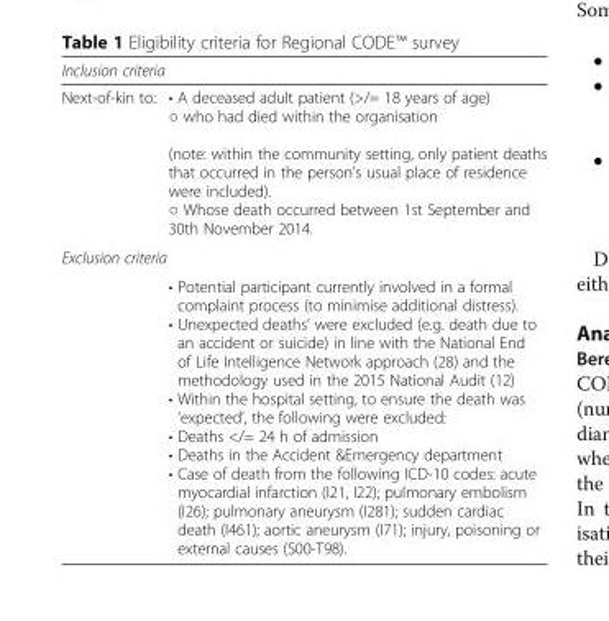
<table><thead><tr><td colspan="2">Inclusion criteria</td></tr><tr><td>Next-of-kin to:</td><td>• A deceased adult patient (&gt;/= 18 years of age) ○ who had died within the organisation (note: within the community setting, only patient deaths that occurred in the person’s usual place of residence were included). ○ Whose death occurred between 1st September and 30th November 2014.</td></tr></thead><tbody><tr><td colspan="2">Exclusion criteria</td></tr><tr><td></td><td>• Potential participant currently involved in a formal complaint process (to minimise additional distress). • Unexpected deaths’ were excluded (e.g. death due to an accident or suicide) in line with the National End of Life Intelligence Network approach (28) and the methodology used in the 2015 National Audit (12) • Within the hospital setting, to ensure the death was ‘expected’, the following were excluded: • Deaths &lt;/= 24 h of admission • Deaths in the Accident &amp;Emergency department • Case of death from the following ICD-10 codes: acute myocardial infarction (I21, I22); pulmonary embolism (I26); pulmonary aneurysm (I281); sudden cardiac death (I461); aortic aneurysm (I71); injury, poisoning or external causes (S00-T98).</td></tr></tbody></table>